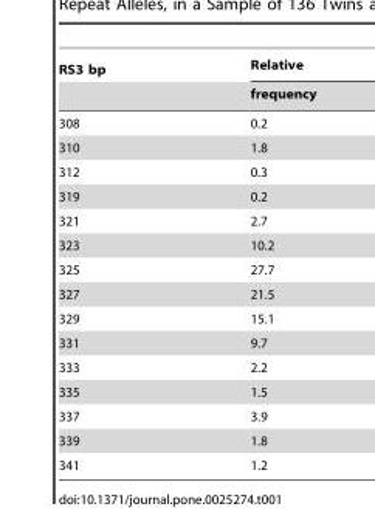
<table><thead><tr><td rowspan="2">RS3 bp</td><td rowspan="2">Relative frequency</td></tr><tr></tr></thead><tbody><tr><td>308</td><td>0.2</td></tr><tr><td>310</td><td>1.8</td></tr><tr><td>312</td><td>0.3</td></tr><tr><td>319</td><td>0.2</td></tr><tr><td>321</td><td>2.7</td></tr><tr><td>323</td><td>10.2</td></tr><tr><td>325</td><td>27.7</td></tr><tr><td>327</td><td>21.5</td></tr><tr><td>329</td><td>15.1</td></tr><tr><td>331</td><td>9.7</td></tr><tr><td>333</td><td>2.2</td></tr><tr><td>335</td><td>1.5</td></tr><tr><td>337</td><td>3.9</td></tr><tr><td>339</td><td>1.8</td></tr><tr><td>341</td><td>1.2</td></tr></tbody></table>